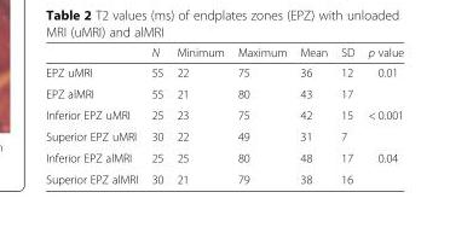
<table><thead><tr><td></td><td>N</td><td>Minimum</td><td>Maximum</td><td>Mean</td><td>SD</td><td>p value</td></tr></thead><tbody><tr><td>EPZ uMRI</td><td>55</td><td>22</td><td>75</td><td>36</td><td>12</td><td rowspan="2">0.01</td></tr><tr><td>EPZ alMRI</td><td>55</td><td>21</td><td>80</td><td>43</td><td>17</td></tr><tr><td>Inferior EPZ uMRI</td><td>25</td><td>23</td><td>75</td><td>42</td><td>15</td><td rowspan="2">&lt; 0.001</td></tr><tr><td>Superior EPZ uMRI</td><td>30</td><td>22</td><td>49</td><td>31</td><td>7</td></tr><tr><td>Inferior EPZ alMRI</td><td>25</td><td>25</td><td>80</td><td>48</td><td>17</td><td rowspan="2">0.04</td></tr><tr><td>Superior EPZ alMRI</td><td>30</td><td>21</td><td>79</td><td>38</td><td>16</td></tr></tbody></table>